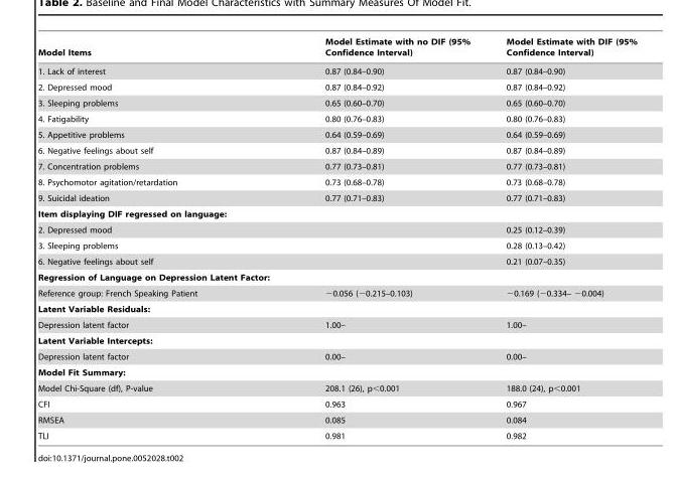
<table><thead><tr><td>Model Items</td><td>Model Estimate with no DIF (95% Confidence Interval)</td><td>Model Estimate with DIF (95% Confidence Interval)</td></tr></thead><tbody><tr><td>1. Lack of interest</td><td>0.87 (0.84–0.90)</td><td>0.87 (0.84–0.90)</td></tr><tr><td>2. Depressed mood</td><td>0.87 (0.84–0.92)</td><td>0.87 (0.84–0.92)</td></tr><tr><td>3. Sleeping problems</td><td>0.65 (0.60–0.70)</td><td>0.65 (0.60–0.70)</td></tr><tr><td>4. Fatigability</td><td>0.80 (0.76–0.83)</td><td>0.80 (0.76–0.83)</td></tr><tr><td>5. Appetitive problems</td><td>0.64 (0.59–0.69)</td><td>0.64 (0.59–0.69)</td></tr><tr><td>6. Negative feelings about self</td><td>0.87 (0.84–0.89)</td><td>0.87 (0.84–0.89)</td></tr><tr><td>7. Concentration problems</td><td>0.77 (0.73–0.81)</td><td>0.77 (0.73–0.81)</td></tr><tr><td>8. Psychomotor agitation/retardation</td><td>0.73 (0.68–0.78)</td><td>0.73 (0.68–0.78)</td></tr><tr><td>9. Suicidal ideation</td><td>0.77 (0.71–0.83)</td><td>0.77 (0.71–0.83)</td></tr><tr><td colspan="3">Item displaying DIF regressed on language:</td></tr><tr><td>2. Depressed mood</td><td></td><td>0.25 (0.12–0.39)</td></tr><tr><td>3. Sleeping problems</td><td></td><td>0.28 (0.13–0.42)</td></tr><tr><td>6. Negative feelings about self</td><td></td><td>0.21 (0.07–0.35)</td></tr><tr><td colspan="3">Regression of Language on Depression Latent Factor:</td></tr><tr><td>Reference group: French Speaking Patient</td><td>−0.056 (−0.215–0.103)</td><td>−0.169 (−0.334– −0.004)</td></tr><tr><td colspan="3">Latent Variable Residuals:</td></tr><tr><td>Depression latent factor</td><td>1.00–</td><td>1.00–</td></tr><tr><td colspan="3">Latent Variable Intercepts:</td></tr><tr><td>Depression latent factor</td><td>0.00–</td><td>0.00–</td></tr><tr><td colspan="3">Model Fit Summary:</td></tr><tr><td>Model Chi-Square (df), P-value</td><td>208.1 (26), p&lt;0.001</td><td>188.0 (24), p&lt;0.001</td></tr><tr><td>CFI</td><td>0.963</td><td>0.967</td></tr><tr><td>RMSEA</td><td>0.085</td><td>0.084</td></tr><tr><td>TLI</td><td>0.981</td><td>0.982</td></tr></tbody></table>